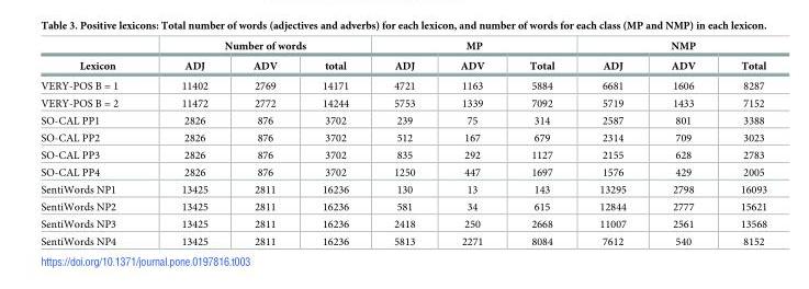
<table><thead><tr><td rowspan="2">Lexicon</td><td colspan="3">Number of words</td><td colspan="3">MP</td><td colspan="3">NMP</td></tr><tr><td>ADJ</td><td>ADV</td><td>total</td><td>ADJ</td><td>ADV</td><td>Total</td><td>ADJ</td><td>ADV</td><td>Total</td></tr></thead><tbody><tr><td>VERY-POS B = 1</td><td>11402</td><td>2769</td><td>14171</td><td>4721</td><td>1163</td><td>5884</td><td>6681</td><td>1606</td><td>8287</td></tr><tr><td>VERY-POS B = 2</td><td>11472</td><td>2772</td><td>14244</td><td>5753</td><td>1339</td><td>7092</td><td>5719</td><td>1433</td><td>7152</td></tr><tr><td>SO-CAL PP1</td><td>2826</td><td>876</td><td>3702</td><td>239</td><td>75</td><td>314</td><td>2587</td><td>801</td><td>3388</td></tr><tr><td>SO-CAL PP2</td><td>2826</td><td>876</td><td>3702</td><td>512</td><td>167</td><td>679</td><td>2314</td><td>709</td><td>3023</td></tr><tr><td>SO-CAL PP3</td><td>2826</td><td>876</td><td>3702</td><td>835</td><td>292</td><td>1127</td><td>2155</td><td>628</td><td>2783</td></tr><tr><td>SO-CAL PP4</td><td>2826</td><td>876</td><td>3702</td><td>1250</td><td>447</td><td>1697</td><td>1576</td><td>429</td><td>2005</td></tr><tr><td>SentiWords NP1</td><td>13425</td><td>2811</td><td>16236</td><td>130</td><td>13</td><td>143</td><td>13295</td><td>2798</td><td>16093</td></tr><tr><td>SentiWords NP2</td><td>13425</td><td>2811</td><td>16236</td><td>581</td><td>34</td><td>615</td><td>12844</td><td>2777</td><td>15621</td></tr><tr><td>SentiWords NP3</td><td>13425</td><td>2811</td><td>16236</td><td>2418</td><td>250</td><td>2668</td><td>11007</td><td>2561</td><td>13568</td></tr><tr><td>SentiWords NP4</td><td>13425</td><td>2811</td><td>16236</td><td>5813</td><td>2271</td><td>8084</td><td>7612</td><td>540</td><td>8152</td></tr></tbody></table>